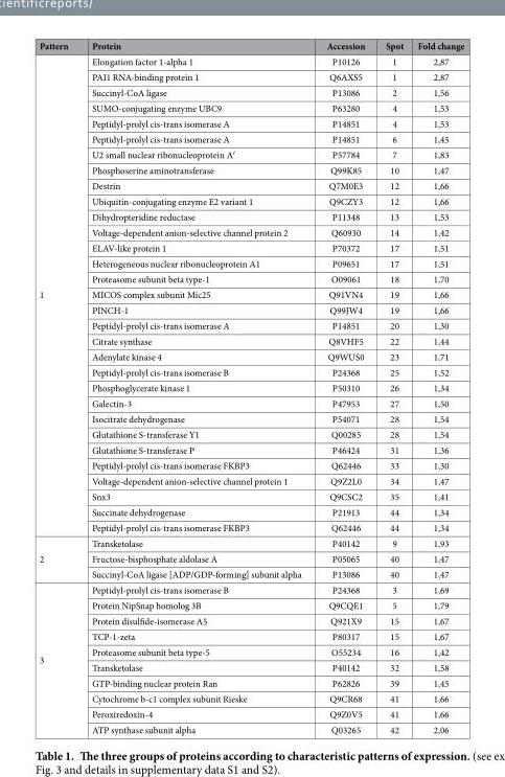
<table><thead><tr><td>Pattern</td><td>Protein</td><td>Accession</td><td>Spot</td><td>Fold change</td></tr></thead><tbody><tr><td rowspan="31">1</td><td>Elongation factor 1-alpha 1</td><td>P10126</td><td>1</td><td>2,87</td></tr><tr><td>PAI1 RNA-binding protein 1</td><td>Q6AXS5</td><td>1</td><td>2,87</td></tr><tr><td>Succinyl-CoA ligase</td><td>P13086</td><td>2</td><td>1,56</td></tr><tr><td>SUMO-conjugating enzyme UBC9</td><td>P63280</td><td>4</td><td>1,53</td></tr><tr><td>Peptidyl-prolyl cis-trans isomerase A</td><td>P14851</td><td>4</td><td>1,53</td></tr><tr><td>Peptidyl-prolyl cis-trans isomerase A</td><td>P14851</td><td>6</td><td>1,45</td></tr><tr><td>U2 small nuclear ribonucleoprotein A′</td><td>P57784</td><td>7</td><td>1,83</td></tr><tr><td>Phosphoserine aminotransferase</td><td>Q99K85</td><td>10</td><td>1,47</td></tr><tr><td>Destrin</td><td>Q7M0E3</td><td>12</td><td>1,66</td></tr><tr><td>Ubiquitin-conjugating enzyme E2 variant 1</td><td>Q9CZY3</td><td>12</td><td>1,66</td></tr><tr><td>Dihydropteridine reductase</td><td>P11348</td><td>13</td><td>1,53</td></tr><tr><td>Voltage-dependent anion-selective channel protein 2</td><td>Q60930</td><td>14</td><td>1,42</td></tr><tr><td>ELAV-like protein 1</td><td>P70372</td><td>17</td><td>1,51</td></tr><tr><td>Heterogeneous nuclear ribonucleoprotein A1</td><td>P09651</td><td>17</td><td>1,51</td></tr><tr><td>Proteasome subunit beta type-1</td><td>O09061</td><td>18</td><td>1,70</td></tr><tr><td>MICOS complex subunit Mic25</td><td>Q91VN4</td><td>19</td><td>1,66</td></tr><tr><td>PINCH-1</td><td>Q99JW4</td><td>19</td><td>1,66</td></tr><tr><td>Peptidyl-prolyl cis-trans isomerase A</td><td>P14851</td><td>20</td><td>1,30</td></tr><tr><td>Citrate synthase</td><td>Q8VHF5</td><td>22</td><td>1,44</td></tr><tr><td>Adenylate kinase 4</td><td>Q9WUS0</td><td>23</td><td>1,71</td></tr><tr><td>Peptidyl-prolyl cis-trans isomerase B</td><td>P24368</td><td>25</td><td>1,52</td></tr><tr><td>Phosphoglycerate kinase 1</td><td>P50310</td><td>26</td><td>1,34</td></tr><tr><td>Galectin-3</td><td>P47953</td><td>27</td><td>1,50</td></tr><tr><td>Isocitrate dehydrogenase</td><td>P54071</td><td>28</td><td>1,54</td></tr><tr><td>Glutathione S-transferase Y1</td><td>Q00285</td><td>28</td><td>1,54</td></tr><tr><td>Glutathione S-transferase P</td><td>P46424</td><td>31</td><td>1,36</td></tr><tr><td>Peptidyl-prolyl cis-trans isomerase FKBP3</td><td>Q62446</td><td>33</td><td>1,30</td></tr><tr><td>Voltage-dependent anion-selective channel protein 1</td><td>Q9Z2L0</td><td>34</td><td>1,47</td></tr><tr><td>Snx3</td><td>Q9CSC2</td><td>35</td><td>1,41</td></tr><tr><td>Succinate dehydrogenase</td><td>P21913</td><td>44</td><td>1,34</td></tr><tr><td>Peptidyl-prolyl cis-trans isomerase FKBP3</td><td>Q62446</td><td>44</td><td>1,34</td></tr><tr><td rowspan="3">2</td><td>Transketolase</td><td>P40142</td><td>9</td><td>1,93</td></tr><tr><td>Fructose-bisphosphate aldolase A</td><td>P05065</td><td>40</td><td>1,47</td></tr><tr><td>Succinyl-CoA ligase [ADP/GDP-forming] subunit alpha</td><td>P13086</td><td>40</td><td>1,47</td></tr><tr><td rowspan="10">3</td><td>Peptidyl-prolyl cis-trans isomerase B</td><td>P24368</td><td>3</td><td>1,69</td></tr><tr><td>Protein NipSnap homolog 3B</td><td>Q9CQE1</td><td>5</td><td>1,79</td></tr><tr><td>Protein disulfide-isomerase A5</td><td>Q921X9</td><td>15</td><td>1,67</td></tr><tr><td>TCP-1-zeta</td><td>P80317</td><td>15</td><td>1,67</td></tr><tr><td>Proteasome subunit beta type-5</td><td>O55234</td><td>16</td><td>1,42</td></tr><tr><td>Transketolase</td><td>P40142</td><td>32</td><td>1,58</td></tr><tr><td>GTP-binding nuclear protein Ran</td><td>P62826</td><td>39</td><td>1,45</td></tr><tr><td>Cytochrome b-c1 complex subunit Rieske</td><td>Q9CR68</td><td>41</td><td>1,66</td></tr><tr><td>Peroxiredoxin-4</td><td>Q9Z0V5</td><td>41</td><td>1,66</td></tr><tr><td>ATP synthase subunit alpha</td><td>Q03265</td><td>42</td><td>2,06</td></tr></tbody></table>